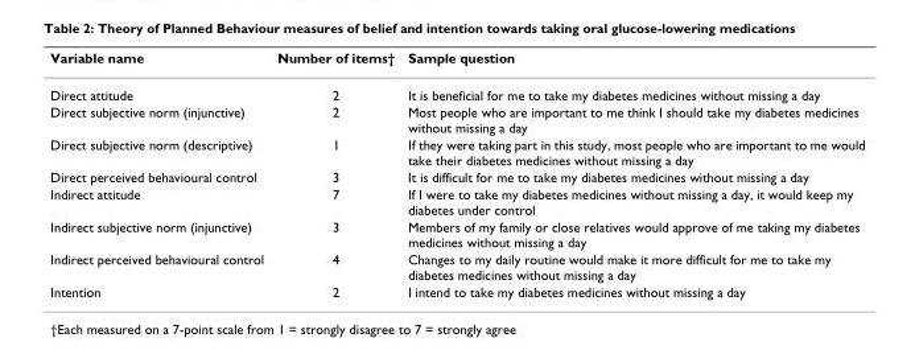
<table><thead><tr><td>Variable name</td><td>Number of items†</td><td>Sample question</td></tr></thead><tbody><tr><td>Direct attitude</td><td>2</td><td>It is beneficial for me to take my diabetes medicines without missing a day</td></tr><tr><td>Direct subjective norm (injunctive)</td><td>2</td><td>Most people who are important to me think I should take my diabetes medicines without missing a day</td></tr><tr><td>Direct subjective norm (descriptive)</td><td>1</td><td>If they were taking part in this study, most people who are important to me would take their diabetes medicines without missing a day</td></tr><tr><td>Direct perceived behavioural control</td><td>3</td><td>It is difficult for me to take my diabetes medicines without missing a day</td></tr><tr><td>Indirect attitude</td><td>7</td><td>If I were to take my diabetes medicines without missing a day, it would keep my diabetes under control</td></tr><tr><td>Indirect subjective norm (injunctive)</td><td>3</td><td>Members of my family or close relatives would approve of me taking my diabetes medicines without missing a day</td></tr><tr><td>Indirect perceived behavioural control</td><td>4</td><td>Changes to my daily routine would make it more difficult for me to take my diabetes medicines without missing a day</td></tr><tr><td>Intention</td><td>2</td><td>I intend to take my diabetes medicines without missing a day</td></tr></tbody></table>